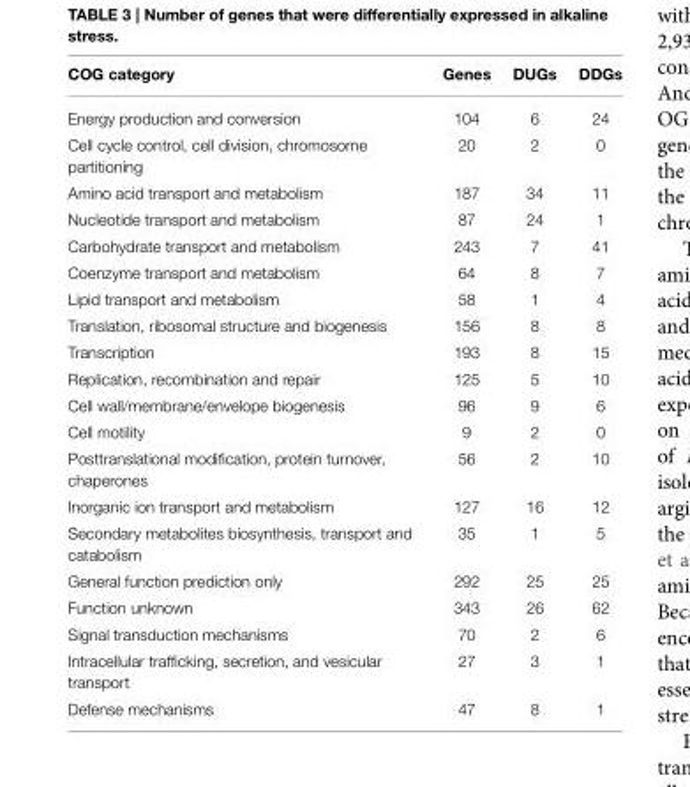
<table><thead><tr><td>COG category</td><td>Genes</td><td>DUGs</td><td>DDGs</td></tr></thead><tbody><tr><td>Energy production and conversion</td><td>104</td><td>6</td><td>24</td></tr><tr><td>Cell cycle control, cell division, chromosome partitioning</td><td>20</td><td>2</td><td>0</td></tr><tr><td>Amino acid transport and metabolism</td><td>187</td><td>34</td><td>11</td></tr><tr><td>Nucleotide transport and metabolism</td><td>87</td><td>24</td><td>1</td></tr><tr><td>Carbohydrate transport and metabolism</td><td>243</td><td>7</td><td>41</td></tr><tr><td>Coenzyme transport and metabolism</td><td>64</td><td>8</td><td>7</td></tr><tr><td>Lipid transport and metabolism</td><td>58</td><td>1</td><td>4</td></tr><tr><td>Translation, ribosomal structure and biogenesis</td><td>156</td><td>8</td><td>8</td></tr><tr><td>Transcription</td><td>193</td><td>8</td><td>15</td></tr><tr><td>Replication, recombination and repair</td><td>125</td><td>5</td><td>10</td></tr><tr><td>Cell wall/membrane/envelope biogenesis</td><td>96</td><td>9</td><td>6</td></tr><tr><td>Cell motility</td><td>9</td><td>2</td><td>0</td></tr><tr><td>Posttranslational modification, protein turnover, chaperones</td><td>56</td><td>2</td><td>10</td></tr><tr><td>Inorganic ion transport and metabolism</td><td>127</td><td>16</td><td>12</td></tr><tr><td>Secondary metabolites biosynthesis, transport and catabolism</td><td>35</td><td>1</td><td>5</td></tr><tr><td>General function prediction only</td><td>292</td><td>25</td><td>25</td></tr><tr><td>Function unknown</td><td>343</td><td>26</td><td>62</td></tr><tr><td>Signal transduction mechanisms</td><td>70</td><td>2</td><td>6</td></tr><tr><td>Intracellular trafficking, secretion, and vesicular transport</td><td>27</td><td>3</td><td>1</td></tr><tr><td>Defense mechanisms</td><td>47</td><td>8</td><td>1</td></tr></tbody></table>